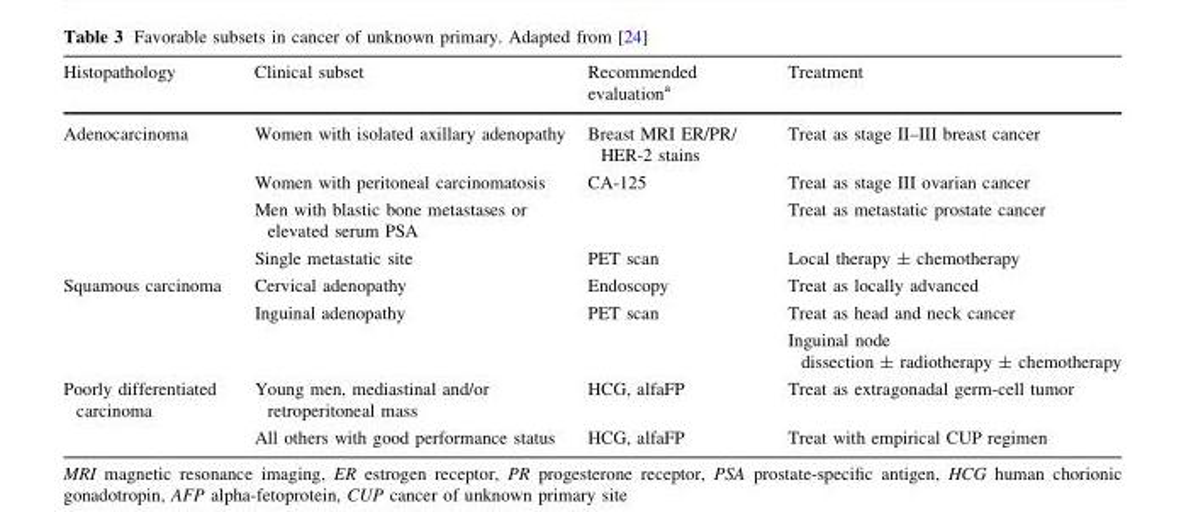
<table><thead><tr><td>Histopathology</td><td>Clinical subset</td><td>Recommended evaluation<sup>a</sup></td><td>Treatment</td></tr></thead><tbody><tr><td rowspan="4">Adenocarcinoma</td><td>Women with isolated axillary adenopathy</td><td>Breast MRI ER/PR/ HER-2 stains</td><td>Treat as stage II–III breast cancer</td></tr><tr><td>Women with peritoneal carcinomatosis</td><td>CA-125</td><td>Treat as stage III ovarian cancer</td></tr><tr><td>Men with blastic bone metastases or elevated serum PSA</td><td></td><td>Treat as metastatic prostate cancer</td></tr><tr><td>Single metastatic site</td><td>PET scan</td><td>Local therapy ± chemotherapy</td></tr><tr><td rowspan="3">Squamous carcinoma</td><td>Cervical adenopathy</td><td>Endoscopy</td><td>Treat as locally advanced</td></tr><tr><td>Inguinal adenopathy</td><td>PET scan</td><td>Treat as head and neck cancer</td></tr><tr><td></td><td></td><td>Inguinal node dissection ± radiotherapy ± chemotherapy</td></tr><tr><td rowspan="2">Poorly differentiated carcinoma</td><td>Young men, mediastinal and/or retroperitoneal mass</td><td>HCG, alfaFP</td><td>Treat as extragonadal germ-cell tumor</td></tr><tr><td>All others with good performance status</td><td>HCG, alfaFP</td><td>Treat with empirical CUP regimen</td></tr></tbody></table>